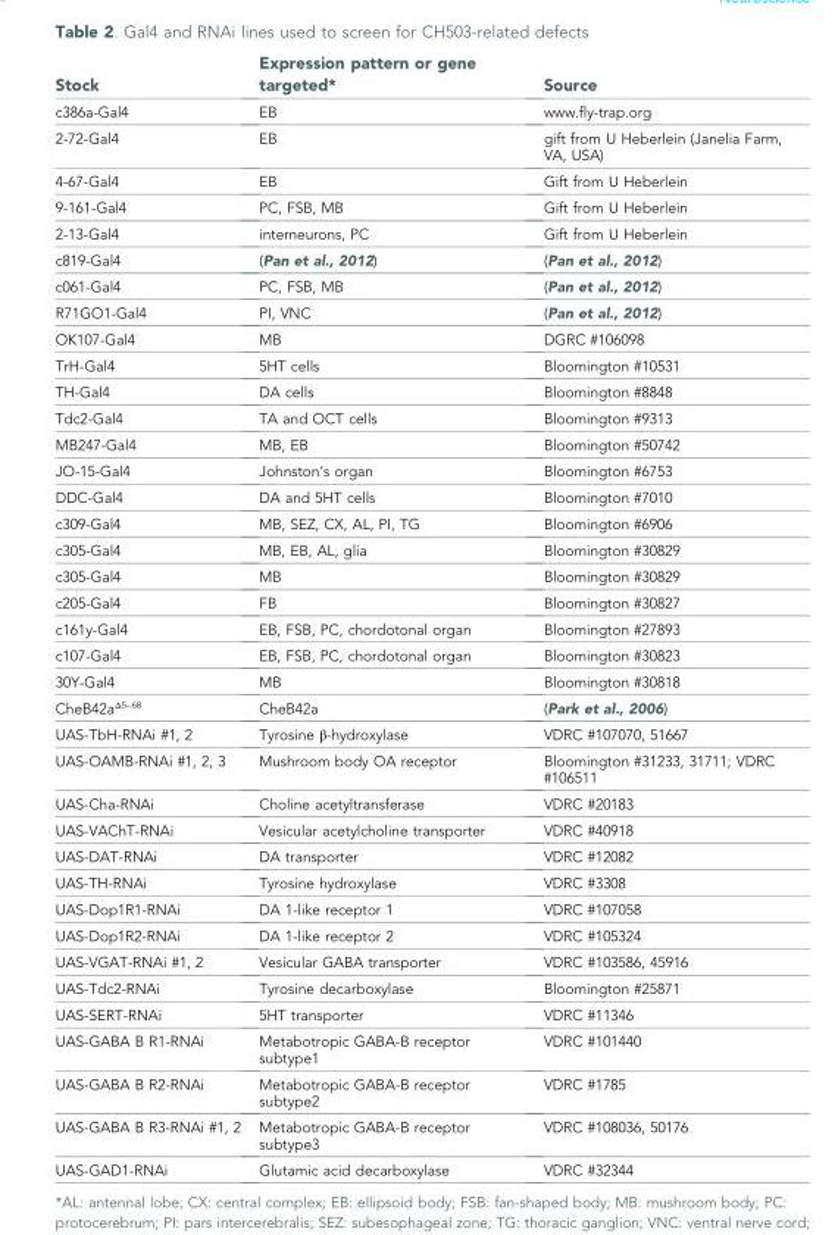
<table><thead><tr><td>Stock</td><td>Expression pattern or gene targeted*</td><td>Source</td></tr></thead><tbody><tr><td>c386a-Gal4</td><td>EB</td><td>www.fly-trap.org</td></tr><tr><td>2-72-Gal4</td><td>EB</td><td>gift from U Heberlein (Janelia Farm, VA, USA)</td></tr><tr><td>4-67-Gal4</td><td>EB</td><td>Gift from U Heberlein</td></tr><tr><td>9-161-Gal4</td><td>PC, FSB, MB</td><td>Gift from U Heberlein</td></tr><tr><td>2-13-Gal4</td><td>interneurons, PC</td><td>Gift from U Heberlein</td></tr><tr><td>c819-Gal4</td><td>(Pan et al., 2012)</td><td>(Pan et al., 2012)</td></tr><tr><td>c061-Gal4</td><td>PC, FSB, MB</td><td>(Pan et al., 2012)</td></tr><tr><td>R71GO1-Gal4</td><td>PI, VNC</td><td>(Pan et al., 2012)</td></tr><tr><td>OK107-Gal4</td><td>MB</td><td>DGRC #106098</td></tr><tr><td>TrH-Gal4</td><td>5HT cells</td><td>Bloomington #10531</td></tr><tr><td>TH-Gal4</td><td>DA cells</td><td>Bloomington #8848</td></tr><tr><td>Tdc2-Gal4</td><td>TA and OCT cells</td><td>Bloomington #9313</td></tr><tr><td>MB247-Gal4</td><td>MB, EB</td><td>Bloomington #50742</td></tr><tr><td>JO-15-Gal4</td><td>Johnston’s organ</td><td>Bloomington #6753</td></tr><tr><td>DDC-Gal4</td><td>DA and 5HT cells</td><td>Bloomington #7010</td></tr><tr><td>c309-Gal4</td><td>MB, SEZ, CX, AL, PI, TG</td><td>Bloomington #6906</td></tr><tr><td>c305-Gal4</td><td>MB, EB, AL, glia</td><td>Bloomington #30829</td></tr><tr><td>c305-Gal4</td><td>MB</td><td>Bloomington #30829</td></tr><tr><td>c205-Gal4</td><td>FB</td><td>Bloomington #30827</td></tr><tr><td>c161y-Gal4</td><td>EB, FSB, PC, chordotonal organ</td><td>Bloomington #27893</td></tr><tr><td>c107-Gal4</td><td>EB, FSB, PC, chordotonal organ</td><td>Bloomington #30823</td></tr><tr><td>30Y-Gal4</td><td>MB</td><td>Bloomington #30818</td></tr><tr><td>CheB42a<sup>Δ5–68</sup></td><td>CheB42a</td><td>(Park et al., 2006)</td></tr><tr><td>UAS-TbH-RNAi #1, 2</td><td>Tyrosine β-hydroxylase</td><td>VDRC #107070, 51667</td></tr><tr><td>UAS-OAMB-RNAi #1, 2, 3</td><td>Mushroom body OA receptor</td><td>Bloomington #31233, 31711; VDRC #106511</td></tr><tr><td>UAS-Cha-RNAi</td><td>Choline acetyltransferase</td><td>VDRC #20183</td></tr><tr><td>UAS-VAChT-RNAi</td><td>Vesicular acetylcholine transporter</td><td>VDRC #40918</td></tr><tr><td>UAS-DAT-RNAi</td><td>DA transporter</td><td>VDRC #12082</td></tr><tr><td>UAS-TH-RNAi</td><td>Tyrosine hydroxylase</td><td>VDRC #3308</td></tr><tr><td>UAS-Dop1R1-RNAi</td><td>DA 1-like receptor 1</td><td>VDRC #107058</td></tr><tr><td>UAS-Dop1R2-RNAi</td><td>DA 1-like receptor 2</td><td>VDRC #105324</td></tr><tr><td>UAS-VGAT-RNAi #1, 2</td><td>Vesicular GABA transporter</td><td>VDRC #103586, 45916</td></tr><tr><td>UAS-Tdc2-RNAi</td><td>Tyrosine decarboxylase</td><td>Bloomington #25871</td></tr><tr><td>UAS-SERT-RNAi</td><td>5HT transporter</td><td>VDRC #11346</td></tr><tr><td>UAS-GABA B R1-RNAi</td><td>Metabotropic GABA-B receptor subtype1</td><td>VDRC #101440</td></tr><tr><td>UAS-GABA B R2-RNAi</td><td>Metabotropic GABA-B receptor subtype2</td><td>VDRC #1785</td></tr><tr><td>UAS-GABA B R3-RNAi #1, 2</td><td>Metabotropic GABA-B receptor subtype3</td><td>VDRC #108036, 50176</td></tr><tr><td>UAS-GAD1-RNAi</td><td>Glutamic acid decarboxylase</td><td>VDRC #32344</td></tr></tbody></table>